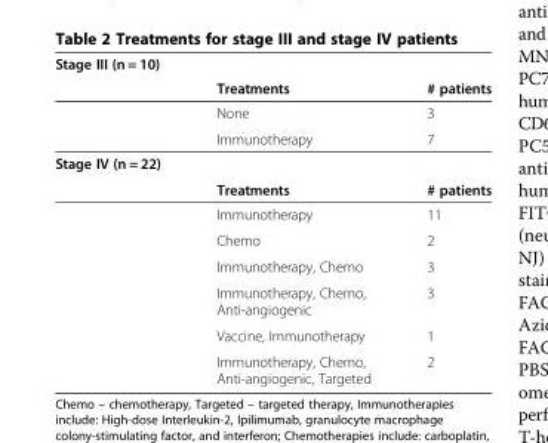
<table><thead><tr><td rowspan="2">Stage III (n = 10)</td><td rowspan="2">Treatments</td><td rowspan="2"># patients</td></tr><tr></tr></thead><tbody><tr><td></td><td>None</td><td>3</td></tr><tr><td></td><td>Immunotherapy</td><td>7</td></tr><tr><td colspan="3">Stage IV (n = 22)</td></tr><tr><td></td><td>Treatments</td><td># patients</td></tr><tr><td></td><td>Immunotherapy</td><td>11</td></tr><tr><td></td><td>Chemo</td><td>2</td></tr><tr><td></td><td>Immunotherapy, Chemo</td><td>3</td></tr><tr><td></td><td>Immunotherapy, Chemo, Anti-angiogenic</td><td>3</td></tr><tr><td></td><td>Vaccine, Immunotherapy</td><td>1</td></tr><tr><td></td><td>Immunotherapy, Chemo, Anti-angiogenic, Targeted</td><td>2</td></tr></tbody></table>